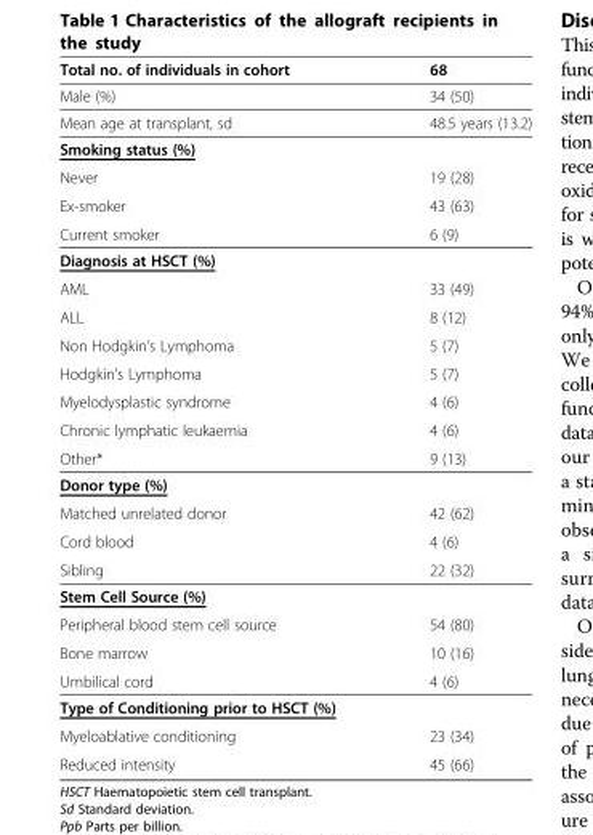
<table><thead><tr><td>Total no. of individuals in cohort</td><td>68</td></tr></thead><tbody><tr><td>Male (%)</td><td>34 (50)</td></tr><tr><td>Mean age at transplant, sd</td><td>48.5 years (13.2)</td></tr><tr><td colspan="2">Smoking status (%)</td></tr><tr><td>Never</td><td>19 (28)</td></tr><tr><td>Ex-smoker</td><td>43 (63)</td></tr><tr><td>Current smoker</td><td>6 (9)</td></tr><tr><td colspan="2">Diagnosis at HSCT (%)</td></tr><tr><td>AML</td><td>33 (49)</td></tr><tr><td>ALL</td><td>8 (12)</td></tr><tr><td>Non Hodgkin’s Lymphoma</td><td>5 (7)</td></tr><tr><td>Hodgkin’s Lymphoma</td><td>5 (7)</td></tr><tr><td>Myelodysplastic syndrome</td><td>4 (6)</td></tr><tr><td>Chronic lymphatic leukaemia</td><td>4 (6)</td></tr><tr><td>Other*</td><td>9 (13)</td></tr><tr><td colspan="2">Donor type (%)</td></tr><tr><td>Matched unrelated donor</td><td>42 (62)</td></tr><tr><td>Cord blood</td><td>4 (6)</td></tr><tr><td>Sibling</td><td>22 (32)</td></tr><tr><td colspan="2">Stem Cell Source (%)</td></tr><tr><td>Peripheral blood stem cell source</td><td>54 (80)</td></tr><tr><td>Bone marrow</td><td>10 (16)</td></tr><tr><td>Umbilical cord</td><td>4 (6)</td></tr><tr><td colspan="2">Type of Conditioning prior to HSCT (%)</td></tr><tr><td>Myeloablative conditioning</td><td>23 (34)</td></tr><tr><td>Reduced intensity</td><td>45 (66)</td></tr></tbody></table>